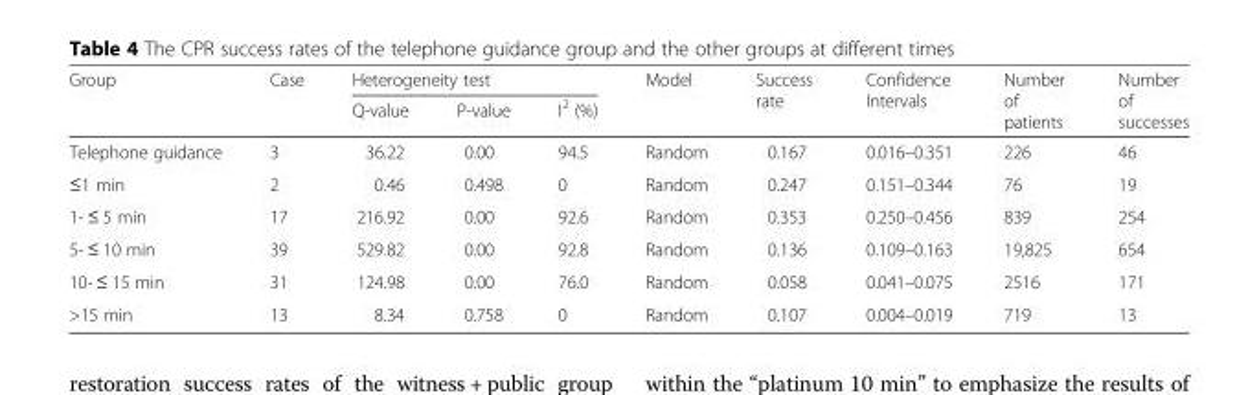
<table><thead><tr><td rowspan="2">Group</td><td rowspan="2">Case</td><td colspan="3">Heterogeneity test</td><td rowspan="2">Model</td><td rowspan="2">Success rate</td><td rowspan="2">Confidence Intervals</td><td rowspan="2">Number of patients</td><td rowspan="2">Number of successes</td></tr><tr><td>Q-value</td><td>P-value</td><td>I<sup>2</sup> (%)</td></tr></thead><tbody><tr><td>Telephone guidance</td><td>3</td><td>36.22</td><td>0.00</td><td>94.5</td><td>Random</td><td>0.167</td><td>0.016–0.351</td><td>226</td><td>46</td></tr><tr><td>≤1 min</td><td>2</td><td>0.46</td><td>0.498</td><td>0</td><td>Random</td><td>0.247</td><td>0.151–0.344</td><td>76</td><td>19</td></tr><tr><td>1- ≤ 5 min</td><td>17</td><td>216.92</td><td>0.00</td><td>92.6</td><td>Random</td><td>0.353</td><td>0.250–0.456</td><td>839</td><td>254</td></tr><tr><td>5- ≤ 10 min</td><td>39</td><td>529.82</td><td>0.00</td><td>92.8</td><td>Random</td><td>0.136</td><td>0.109–0.163</td><td>19,825</td><td>654</td></tr><tr><td>10- ≤ 15 min</td><td>31</td><td>124.98</td><td>0.00</td><td>76.0</td><td>Random</td><td>0.058</td><td>0.041–0.075</td><td>2516</td><td>171</td></tr><tr><td>&gt;15 min</td><td>13</td><td>8.34</td><td>0.758</td><td>0</td><td>Random</td><td>0.107</td><td>0.004–0.019</td><td>719</td><td>13</td></tr></tbody></table>